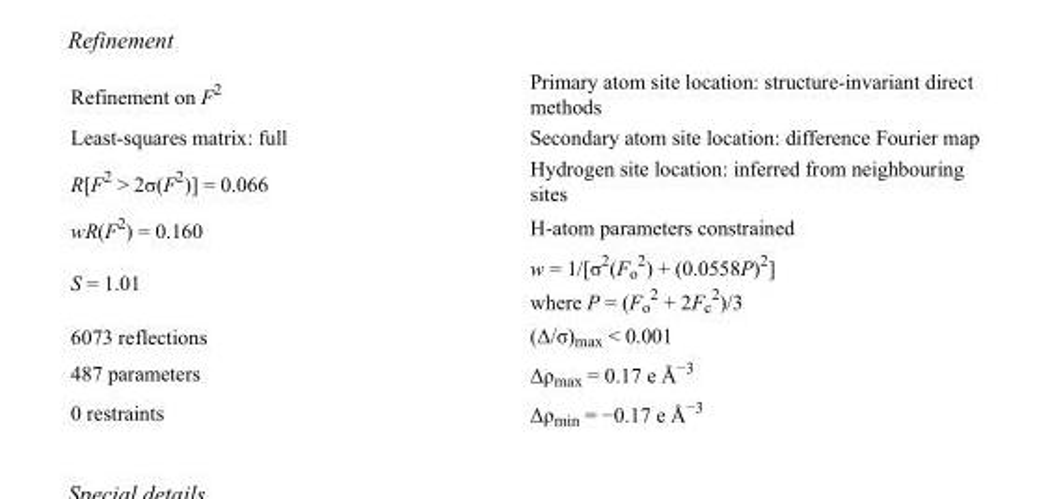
<table><tbody><tr><td>Refinement on F<sup>2</sup></td><td>Primary atom site location: structure-invariant direct methods</td></tr><tr><td>Least-squares matrix: full</td><td>Secondary atom site location: difference Fourier map</td></tr><tr><td>R[F<sup>2</sup> &gt; 2σ(F<sup>2</sup>)] = 0.066</td><td>Hydrogen site location: inferred from neighbouring sites</td></tr><tr><td>wR(F<sup>2</sup>) = 0.160</td><td>H-atom parameters constrained</td></tr><tr><td>S = 1.01</td><td>w = 1/[σ<sup>2</sup>(F<sub>o</sub> <sup>2</sup>) + (0.0558P)<sup>2</sup>] where P = (F<sub>o</sub> <sup>2</sup> + 2F<sub>c</sub> <sup>2</sup>)/3</td></tr><tr><td>6073 reflections</td><td>(Δ/σ)<sub>max</sub> &lt; 0.001</td></tr><tr><td>487 parameters</td><td>Δρ<sub>max</sub> = 0.17 e Å<sup>−3</sup></td></tr><tr><td>0 restraints</td><td>Δρ<sub>min</sub> = −0.17 e Å<sup>−3</sup></td></tr></tbody></table>